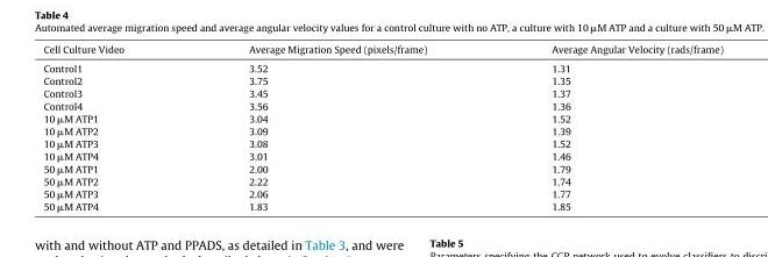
<table><thead><tr><td>Cell Culture Video</td><td>Average Migration Speed (pixels/frame)</td><td>Average Angular Velocity (rads/frame)</td></tr></thead><tbody><tr><td>Control1</td><td>3.52</td><td>1.31</td></tr><tr><td>Control2</td><td>3.75</td><td>1.35</td></tr><tr><td>Control3</td><td>3.45</td><td>1.37</td></tr><tr><td>Control4</td><td>3.56</td><td>1.36</td></tr><tr><td>10 μM ATP1</td><td>3.04</td><td>1.52</td></tr><tr><td>10 μM ATP2</td><td>3.09</td><td>1.39</td></tr><tr><td>10 μM ATP3</td><td>3.08</td><td>1.52</td></tr><tr><td>10 μM ATP4</td><td>3.01</td><td>1.46</td></tr><tr><td>50 μM ATP1</td><td>2.00</td><td>1.79</td></tr><tr><td>50 μM ATP2</td><td>2.22</td><td>1.74</td></tr><tr><td>50 μM ATP3</td><td>2.06</td><td>1.77</td></tr><tr><td>50 μM ATP4</td><td>1.83</td><td>1.85</td></tr></tbody></table>